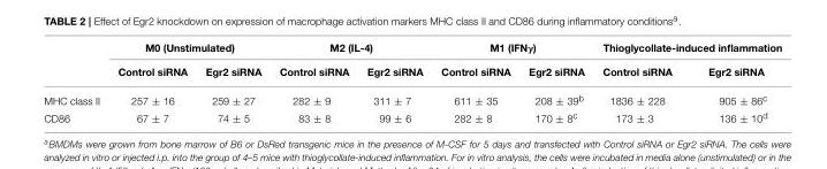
<table><thead><tr><td rowspan="2"></td><td colspan="2">M0 (Unstimulated)</td><td colspan="2">M2 (IL-4)</td><td colspan="2">M1 (IFNγ)</td><td colspan="2">Thioglycollate-induced inflammation</td></tr><tr><td>Control siRNA</td><td>Egr2 siRNA</td><td>Control siRNA</td><td>Egr2 siRNA</td><td>Control siRNA</td><td>Egr2 siRNA</td><td>Control siRNA</td><td>Egr2 siRNA</td></tr></thead><tbody><tr><td>MHC class II</td><td>257 ± 16</td><td>259 ± 27</td><td>282 ± 9</td><td>311 ± 7</td><td>611 ± 35</td><td>208 ± 39<sup>b</sup></td><td>1836 ± 228</td><td>905 ± 86<sup>c</sup></td></tr><tr><td>CD86</td><td>67 ± 7</td><td>74 ± 5</td><td>83 ± 8</td><td>99 ± 6</td><td>282 ± 8</td><td>170 ± 8<sup>c</sup></td><td>173 ± 3</td><td>136 ± 10<sup>d</sup></td></tr></tbody></table>